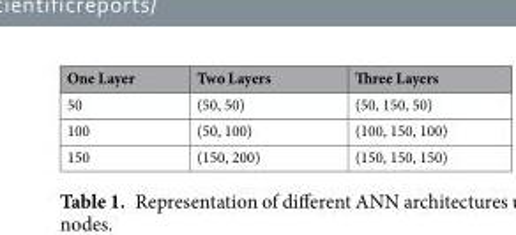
<table><thead><tr><td>One Layer</td><td>Two Layers</td><td>Three Layers</td></tr></thead><tbody><tr><td>50</td><td>(50, 50)</td><td>(50, 150, 50)</td></tr><tr><td>100</td><td>(50, 100)</td><td>(100, 150, 100)</td></tr><tr><td>150</td><td>(150, 200)</td><td>(150, 150, 150)</td></tr></tbody></table>